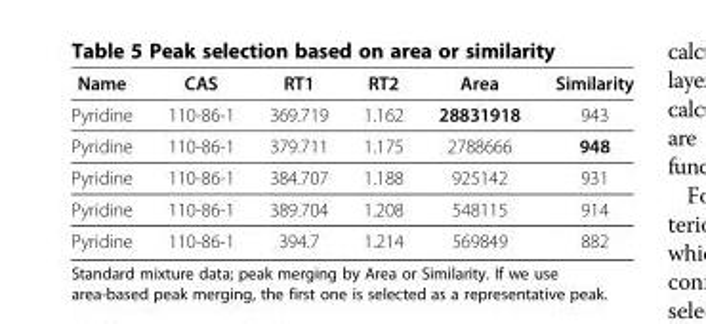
<table><thead><tr><td>Name</td><td>CAS</td><td>RT1</td><td>RT2</td><td>Area</td><td>Similarity</td></tr></thead><tbody><tr><td>Pyridine</td><td>110-86-1</td><td>369.719</td><td>1.162</td><td>28831918</td><td>943</td></tr><tr><td>Pyridine</td><td>110-86-1</td><td>379.711</td><td>1.175</td><td>2788666</td><td>948</td></tr><tr><td>Pyridine</td><td>110-86-1</td><td>384.707</td><td>1.188</td><td>925142</td><td>931</td></tr><tr><td>Pyridine</td><td>110-86-1</td><td>389.704</td><td>1.208</td><td>548115</td><td>914</td></tr><tr><td>Pyridine</td><td>110-86-1</td><td>394.7</td><td>1.214</td><td>569849</td><td>882</td></tr></tbody></table>